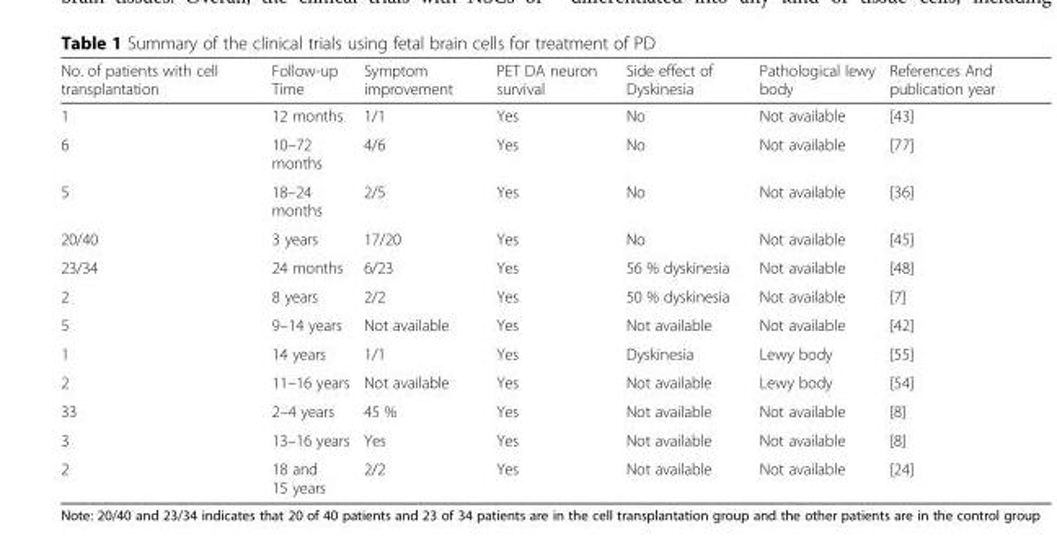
<table><thead><tr><td>No. of patients with cell transplantation</td><td>Follow-up Time</td><td>Symptom improvement</td><td>PET DA neuron survival</td><td>Side effect of Dyskinesia</td><td>Pathological lewy body</td><td>References And publication year</td></tr></thead><tbody><tr><td>1</td><td>12 months</td><td>1/1</td><td>Yes</td><td>No</td><td>Not available</td><td>[43]</td></tr><tr><td>6</td><td>10–72 months</td><td>4/6</td><td>Yes</td><td>No</td><td>Not available</td><td>[77]</td></tr><tr><td>5</td><td>18–24 months</td><td>2/5</td><td>Yes</td><td>No</td><td>Not available</td><td>[36]</td></tr><tr><td>20/40</td><td>3 years</td><td>17/20</td><td>Yes</td><td>No</td><td>Not available</td><td>[45]</td></tr><tr><td>23/34</td><td>24 months</td><td>6/23</td><td>Yes</td><td>56 % dyskinesia</td><td>Not available</td><td>[48]</td></tr><tr><td>2</td><td>8 years</td><td>2/2</td><td>Yes</td><td>50 % dyskinesia</td><td>Not available</td><td>[7]</td></tr><tr><td>5</td><td>9–14 years</td><td>Not available</td><td>Yes</td><td>Not available</td><td>Not available</td><td>[42]</td></tr><tr><td>1</td><td>14 years</td><td>1/1</td><td>Yes</td><td>Dyskinesia</td><td>Lewy body</td><td>[55]</td></tr><tr><td>2</td><td>11–16 years</td><td>Not available</td><td>Yes</td><td>Not available</td><td>Lewy body</td><td>[54]</td></tr><tr><td>33</td><td>2–4 years</td><td>45 %</td><td>Yes</td><td>Not available</td><td>Not available</td><td>[8]</td></tr><tr><td>3</td><td>13–16 years</td><td>Yes</td><td>Yes</td><td>Not available</td><td>Not available</td><td>[8]</td></tr><tr><td>2</td><td>18 and 15 years</td><td>2/2</td><td>Yes</td><td>Not available</td><td>Not available</td><td>[24]</td></tr></tbody></table>